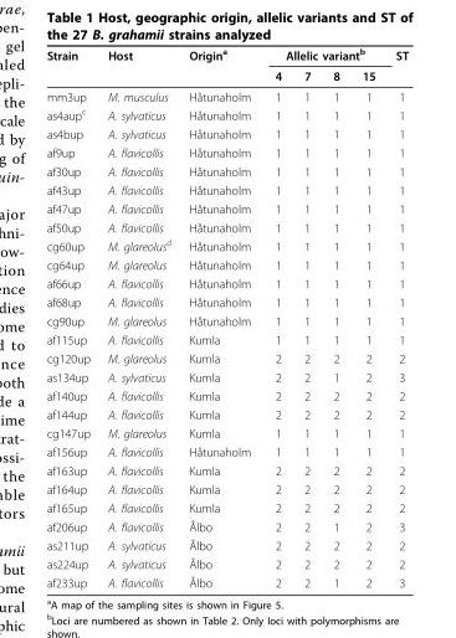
<table><thead><tr><td rowspan="2">Strain</td><td rowspan="2">Host</td><td rowspan="2">Origin<sup>a</sup></td><td colspan="4">Allelic variant<sup>b</sup></td><td rowspan="2">ST</td></tr><tr><td>4</td><td>7</td><td>8</td><td>15</td></tr></thead><tbody><tr><td>mm3up</td><td>M. musculus</td><td>Håtunaholm</td><td>1</td><td>1</td><td>1</td><td>1</td><td>1</td></tr><tr><td>as4aup<sup>c</sup></td><td>A. sylvaticus</td><td>Håtunaholm</td><td>1</td><td>1</td><td>1</td><td>1</td><td>1</td></tr><tr><td>as4bup</td><td>A. sylvaticus</td><td>Håtunaholm</td><td>1</td><td>1</td><td>1</td><td>1</td><td>1</td></tr><tr><td>af9up</td><td>A. flavicollis</td><td>Håtunaholm</td><td>1</td><td>1</td><td>1</td><td>1</td><td>1</td></tr><tr><td>af30up</td><td>A. flavicollis</td><td>Håtunaholm</td><td>1</td><td>1</td><td>1</td><td>1</td><td>1</td></tr><tr><td>af43up</td><td>A. flavicollis</td><td>Håtunaholm</td><td>1</td><td>1</td><td>1</td><td>1</td><td>1</td></tr><tr><td>af47up</td><td>A. flavicollis</td><td>Håtunaholm</td><td>1</td><td>1</td><td>1</td><td>1</td><td>1</td></tr><tr><td>af50up</td><td>A. flavicollis</td><td>Håtunaholm</td><td>1</td><td>1</td><td>1</td><td>1</td><td>1</td></tr><tr><td>cg60up</td><td>M. glareolus<sup>d</sup></td><td>Håtunaholm</td><td>1</td><td>1</td><td>1</td><td>1</td><td>1</td></tr><tr><td>cg64up</td><td>M. glareolus</td><td>Håtunaholm</td><td>1</td><td>1</td><td>1</td><td>1</td><td>1</td></tr><tr><td>af66up</td><td>A. flavicollis</td><td>Håtunaholm</td><td>1</td><td>1</td><td>1</td><td>1</td><td>1</td></tr><tr><td>af68up</td><td>A. flavicollis</td><td>Håtunaholm</td><td>1</td><td>1</td><td>1</td><td>1</td><td>1</td></tr><tr><td>cg90up</td><td>M. glareolus</td><td>Håtunaholm</td><td>1</td><td>1</td><td>1</td><td>1</td><td>1</td></tr><tr><td>af115up</td><td>A. flavicollis</td><td>Kumla</td><td>1</td><td>1</td><td>1</td><td>1</td><td>1</td></tr><tr><td>cg120up</td><td>M. glareolus</td><td>Kumla</td><td>2</td><td>2</td><td>2</td><td>2</td><td>2</td></tr><tr><td>as134up</td><td>A. sylvaticus</td><td>Kumla</td><td>2</td><td>2</td><td>1</td><td>2</td><td>3</td></tr><tr><td>af140up</td><td>A. flavicollis</td><td>Kumla</td><td>2</td><td>2</td><td>2</td><td>2</td><td>2</td></tr><tr><td>af144up</td><td>A. flavicollis</td><td>Kumla</td><td>2</td><td>2</td><td>2</td><td>2</td><td>2</td></tr><tr><td>cg147up</td><td>M. glareolus</td><td>Kumla</td><td>1</td><td>1</td><td>1</td><td>1</td><td>1</td></tr><tr><td>af156up</td><td>A. flavicollis</td><td>Håtunaholm</td><td>1</td><td>1</td><td>1</td><td>1</td><td>1</td></tr><tr><td>af163up</td><td>A. flavicollis</td><td>Kumla</td><td>2</td><td>2</td><td>2</td><td>2</td><td>2</td></tr><tr><td>af164up</td><td>A. flavicollis</td><td>Kumla</td><td>2</td><td>2</td><td>2</td><td>2</td><td>2</td></tr><tr><td>af165up</td><td>A. flavicollis</td><td>Kumla</td><td>2</td><td>2</td><td>2</td><td>2</td><td>2</td></tr><tr><td>af206up</td><td>A. flavicollis</td><td>Ålbo</td><td>2</td><td>2</td><td>1</td><td>2</td><td>3</td></tr><tr><td>as211up</td><td>A. sylvaticus</td><td>Ålbo</td><td>2</td><td>2</td><td>2</td><td>2</td><td>2</td></tr><tr><td>as224up</td><td>A. sylvaticus</td><td>Ålbo</td><td>2</td><td>2</td><td>2</td><td>2</td><td>2</td></tr><tr><td>af233up</td><td>A. flavicollis</td><td>Ålbo</td><td>2</td><td>2</td><td>1</td><td>2</td><td>3</td></tr></tbody></table>